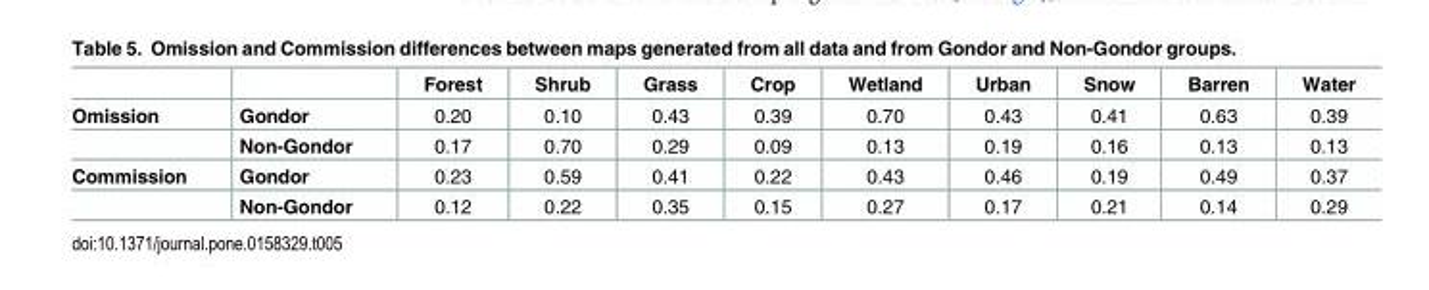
<table><thead><tr><td></td><td></td><td>Forest</td><td>Shrub</td><td>Grass</td><td>Crop</td><td>Wetland</td><td>Urban</td><td>Snow</td><td>Barren</td><td>Water</td></tr></thead><tbody><tr><td rowspan="2">Omission</td><td>Gondor</td><td>0.20</td><td>0.10</td><td>0.43</td><td>0.39</td><td>0.70</td><td>0.43</td><td>0.41</td><td>0.63</td><td>0.39</td></tr><tr><td>Non-Gondor</td><td>0.17</td><td>0.70</td><td>0.29</td><td>0.09</td><td>0.13</td><td>0.19</td><td>0.16</td><td>0.13</td><td>0.13</td></tr><tr><td rowspan="2">Commission</td><td>Gondor</td><td>0.23</td><td>0.59</td><td>0.41</td><td>0.22</td><td>0.43</td><td>0.46</td><td>0.19</td><td>0.49</td><td>0.37</td></tr><tr><td>Non-Gondor</td><td>0.12</td><td>0.22</td><td>0.35</td><td>0.15</td><td>0.27</td><td>0.17</td><td>0.21</td><td>0.14</td><td>0.29</td></tr></tbody></table>